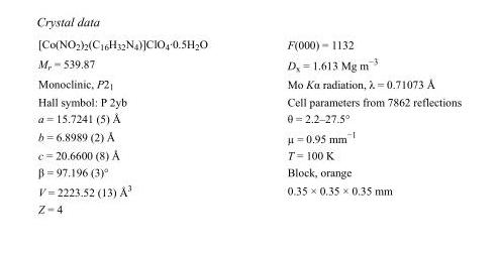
<table><tbody><tr><td>[Co(NO<sub>2</sub>)<sub>2</sub>(C<sub>16</sub>H<sub>32</sub>N<sub>4</sub>)]ClO<sub>4</sub>·0.5H<sub>2</sub>O</td><td>F(000) = 1132</td></tr><tr><td>M<sub>r</sub> = 539.87</td><td>D<sub>x</sub> = 1.613 Mg m<sup>−3</sup></td></tr><tr><td>Monoclinic, P2<sub>1</sub></td><td>Mo Kα radiation, λ = 0.71073 Å</td></tr><tr><td>Hall symbol: P 2yb</td><td>Cell parameters from 7862 reflections</td></tr><tr><td>a = 15.7241 (5) Å</td><td>θ = 2.2–27.5°</td></tr><tr><td>b = 6.8989 (2) Å</td><td>µ = 0.95 mm<sup>−1</sup></td></tr><tr><td>c = 20.6600 (8) Å</td><td>T = 100 K</td></tr><tr><td>β = 97.196 (3)°</td><td>Block, orange</td></tr><tr><td>V = 2223.52 (13) Å<sup>3</sup></td><td>0.35 × 0.35 × 0.35 mm</td></tr><tr><td>Z = 4</td><td></td></tr></tbody></table>